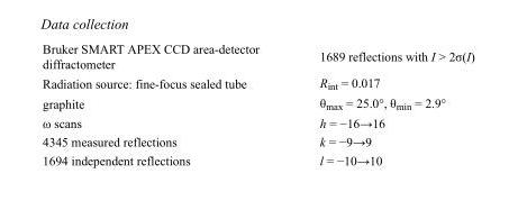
<table><tbody><tr><td>Bruker SMART APEX CCD area-detector diffractometer</td><td>1689 reflections with I &gt; 2σ(I)</td></tr><tr><td>Radiation source: fine-focus sealed tube</td><td>R<sub>int</sub> = 0.017</td></tr><tr><td>graphite</td><td>θ<sub>max</sub> = 25.0°, θ<sub>min</sub> = 2.9°</td></tr><tr><td>ω scans</td><td>h = −16→16</td></tr><tr><td>4345 measured reflections</td><td>k = −9→9</td></tr><tr><td>1694 independent reflections</td><td>l = −10→10</td></tr></tbody></table>